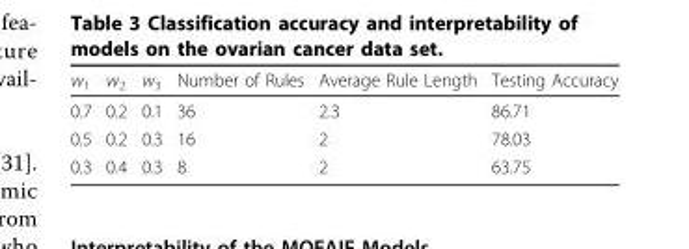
<table><thead><tr><td>w<sub>1</sub></td><td>w<sub>2</sub></td><td>w<sub>3</sub></td><td>Number of Rules</td><td>Average Rule Length</td><td>Testing Accuracy</td></tr></thead><tbody><tr><td>0.7</td><td>0.2</td><td>0.1</td><td>36</td><td>2.3</td><td>86.71</td></tr><tr><td>0.5</td><td>0.2</td><td>0.3</td><td>16</td><td>2</td><td>78.03</td></tr><tr><td>0.3</td><td>0.4</td><td>0.3</td><td>8</td><td>2</td><td>63.75</td></tr></tbody></table>